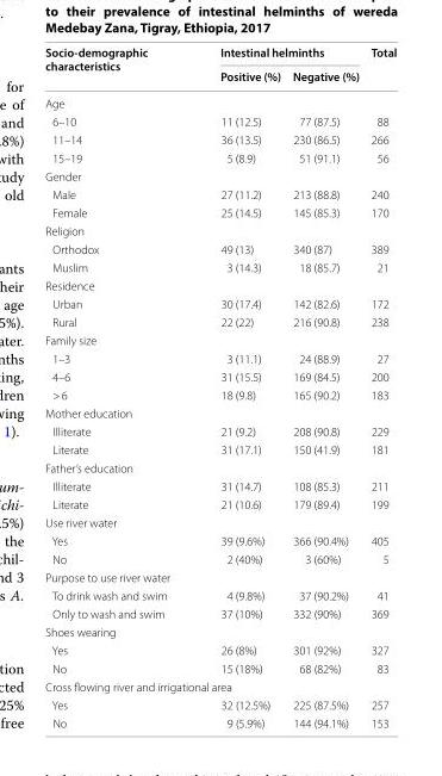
<table><thead><tr><td rowspan="2">Socio-demographic characteristics</td><td colspan="2">Intestinal helminths</td><td rowspan="2">Total</td></tr><tr><td>Positive (%)</td><td>Negative (%)</td></tr></thead><tbody><tr><td colspan="4">Age</td></tr><tr><td>6–10</td><td>11 (12.5)</td><td>77 (87.5)</td><td>88</td></tr><tr><td>11–14</td><td>36 (13.5)</td><td>230 (86.5)</td><td>266</td></tr><tr><td>15–19</td><td>5 (8.9)</td><td>51 (91.1)</td><td>56</td></tr><tr><td colspan="4">Gender</td></tr><tr><td>Male</td><td>27 (11.2)</td><td>213 (88.8)</td><td>240</td></tr><tr><td>Female</td><td>25 (14.5)</td><td>145 (85.3)</td><td>170</td></tr><tr><td colspan="4">Religion</td></tr><tr><td>Orthodox</td><td>49 (13)</td><td>340 (87)</td><td>389</td></tr><tr><td>Muslim</td><td>3 (14.3)</td><td>18 (85.7)</td><td>21</td></tr><tr><td colspan="4">Residence</td></tr><tr><td>Urban</td><td>30 (17.4)</td><td>142 (82.6)</td><td>172</td></tr><tr><td>Rural</td><td>22 (22)</td><td>216 (90.8)</td><td>238</td></tr><tr><td colspan="4">Family size</td></tr><tr><td>1–3</td><td>3 (11.1)</td><td>24 (88.9)</td><td>27</td></tr><tr><td>4–6</td><td>31 (15.5)</td><td>169 (84.5)</td><td>200</td></tr><tr><td>&gt; 6</td><td>18 (9.8)</td><td>165 (90.2)</td><td>183</td></tr><tr><td colspan="4">Mother education</td></tr><tr><td>Illiterate</td><td>21 (9.2)</td><td>208 (90.8)</td><td>229</td></tr><tr><td>Literate</td><td>31 (17.1)</td><td>150 (41.9)</td><td>181</td></tr><tr><td colspan="4">Father’s education</td></tr><tr><td>Illiterate</td><td>31 (14.7)</td><td>108 (85.3)</td><td>211</td></tr><tr><td>Literate</td><td>21 (10.6)</td><td>179 (89.4)</td><td>199</td></tr><tr><td colspan="4">Use river water</td></tr><tr><td>Yes</td><td>39 (9.6%)</td><td>366 (90.4%)</td><td>405</td></tr><tr><td>No</td><td>2 (40%)</td><td>3 (60%)</td><td>5</td></tr><tr><td colspan="4">Purpose to use river water</td></tr><tr><td>To drink wash and swim</td><td>4 (9.8%)</td><td>37 (90.2%)</td><td>41</td></tr><tr><td>Only to wash and swim</td><td>37 (10%)</td><td>332 (90%)</td><td>369</td></tr><tr><td colspan="4">Shoes wearing</td></tr><tr><td>Yes</td><td>26 (8%)</td><td>301 (92%)</td><td>327</td></tr><tr><td>No</td><td>15 (18%)</td><td>68 (82%)</td><td>83</td></tr><tr><td colspan="4">Cross flowing river and irrigational area</td></tr><tr><td>Yes</td><td>32 (12.5%)</td><td>225 (87.5%)</td><td>257</td></tr><tr><td>No</td><td>9 (5.9%)</td><td>144 (94.1%)</td><td>153</td></tr></tbody></table>